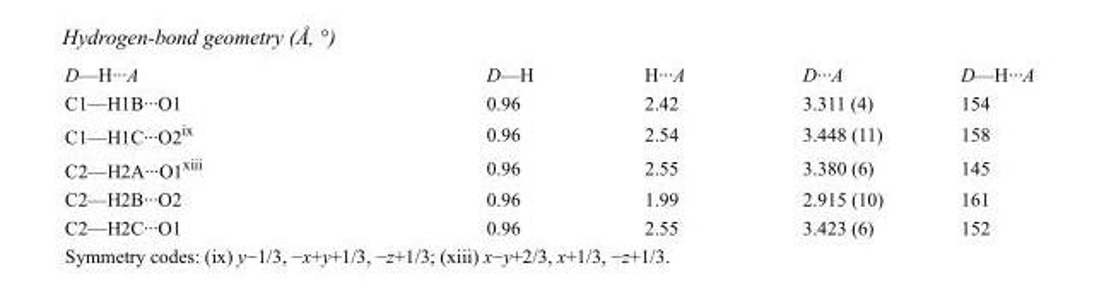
<table><tbody><tr><td>D—H···A</td><td>D—H</td><td>H···A</td><td>D···A</td><td>D—H···A</td></tr><tr><td>C1—H1B···O1</td><td>0.96</td><td>2.42</td><td>3.311 (4)</td><td>154</td></tr><tr><td>C1—H1C···O2<sup>ix</sup></td><td>0.96</td><td>2.54</td><td>3.448 (11)</td><td>158</td></tr><tr><td>C2—H2A···O1<sup>xiii</sup></td><td>0.96</td><td>2.55</td><td>3.380 (6)</td><td>145</td></tr><tr><td>C2—H2B···O2</td><td>0.96</td><td>1.99</td><td>2.915 (10)</td><td>161</td></tr><tr><td>C2—H2C···O1</td><td>0.96</td><td>2.55</td><td>3.423 (6)</td><td>152</td></tr></tbody></table>